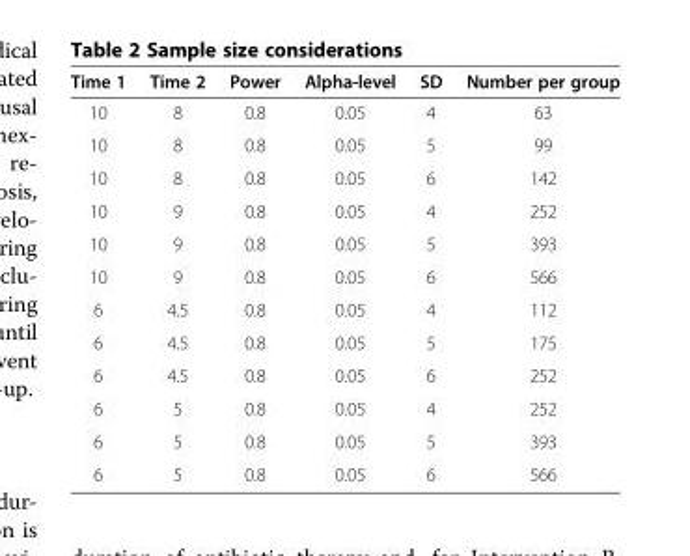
<table><thead><tr><td>Time 1</td><td>Time 2</td><td>Power</td><td>Alpha-level</td><td>SD</td><td>Number per group</td></tr></thead><tbody><tr><td>10</td><td>8</td><td>0.8</td><td>0.05</td><td>4</td><td>63</td></tr><tr><td>10</td><td>8</td><td>0.8</td><td>0.05</td><td>5</td><td>99</td></tr><tr><td>10</td><td>8</td><td>0.8</td><td>0.05</td><td>6</td><td>142</td></tr><tr><td>10</td><td>9</td><td>0.8</td><td>0.05</td><td>4</td><td>252</td></tr><tr><td>10</td><td>9</td><td>0.8</td><td>0.05</td><td>5</td><td>393</td></tr><tr><td>10</td><td>9</td><td>0.8</td><td>0.05</td><td>6</td><td>566</td></tr><tr><td>6</td><td>4.5</td><td>0.8</td><td>0.05</td><td>4</td><td>112</td></tr><tr><td>6</td><td>4.5</td><td>0.8</td><td>0.05</td><td>5</td><td>175</td></tr><tr><td>6</td><td>4.5</td><td>0.8</td><td>0.05</td><td>6</td><td>252</td></tr><tr><td>6</td><td>5</td><td>0.8</td><td>0.05</td><td>4</td><td>252</td></tr><tr><td>6</td><td>5</td><td>0.8</td><td>0.05</td><td>5</td><td>393</td></tr><tr><td>6</td><td>5</td><td>0.8</td><td>0.05</td><td>6</td><td>566</td></tr></tbody></table>